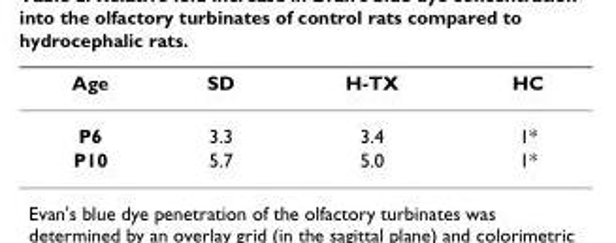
<table><thead><tr><td>Age</td><td>SD</td><td>H-TX</td><td>HC</td></tr></thead><tbody><tr><td>P6</td><td>3.3</td><td>3.4</td><td>1*</td></tr><tr><td>P10</td><td>5.7</td><td>5.0</td><td>1*</td></tr></tbody></table>